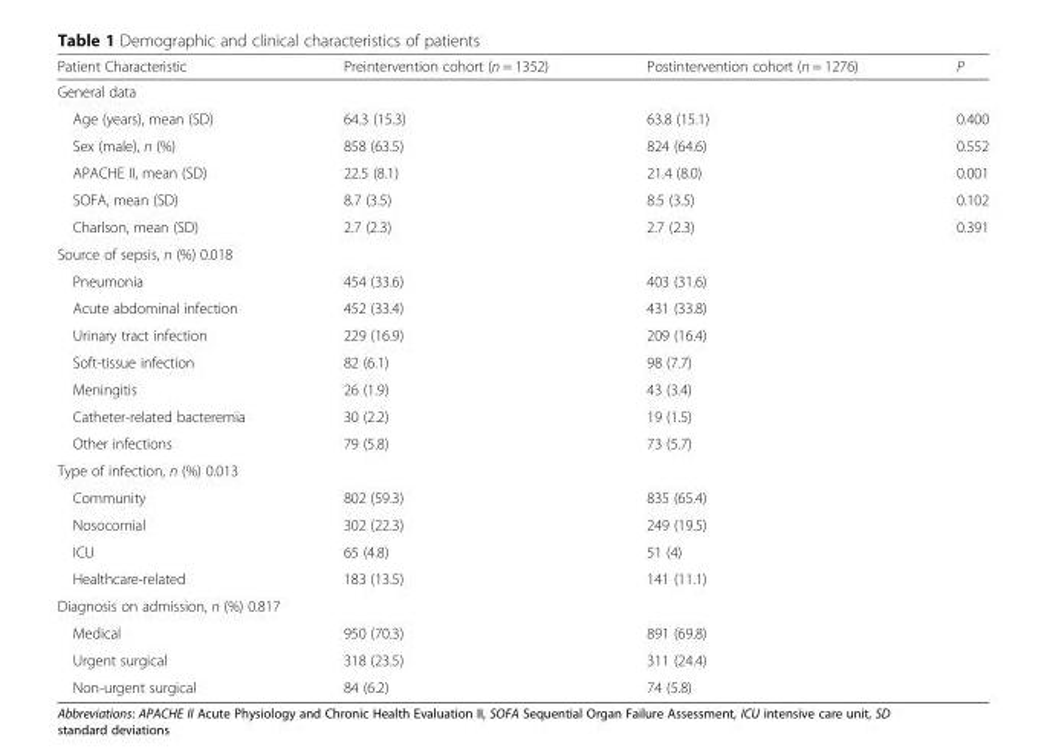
<table><thead><tr><td>Patient Characteristic</td><td>Preintervention cohort (n = 1352)</td><td>Postintervention cohort (n = 1276)</td><td>P</td></tr></thead><tbody><tr><td colspan="4">General data</td></tr><tr><td>Age (years), mean (SD)</td><td>64.3 (15.3)</td><td>63.8 (15.1)</td><td>0.400</td></tr><tr><td>Sex (male), n (%)</td><td>858 (63.5)</td><td>824 (64.6)</td><td>0.552</td></tr><tr><td>APACHE II, mean (SD)</td><td>22.5 (8.1)</td><td>21.4 (8.0)</td><td>0.001</td></tr><tr><td>SOFA, mean (SD)</td><td>8.7 (3.5)</td><td>8.5 (3.5)</td><td>0.102</td></tr><tr><td>Charlson, mean (SD)</td><td>2.7 (2.3)</td><td>2.7 (2.3)</td><td>0.391</td></tr><tr><td colspan="4">Source of sepsis, n (%) 0.018</td></tr><tr><td>Pneumonia</td><td>454 (33.6)</td><td>403 (31.6)</td><td rowspan="7"></td></tr><tr><td>Acute abdominal infection</td><td>452 (33.4)</td><td>431 (33.8)</td></tr><tr><td>Urinary tract infection</td><td>229 (16.9)</td><td>209 (16.4)</td></tr><tr><td>Soft-tissue infection</td><td>82 (6.1)</td><td>98 (7.7)</td></tr><tr><td>Meningitis</td><td>26 (1.9)</td><td>43 (3.4)</td></tr><tr><td>Catheter-related bacteremia</td><td>30 (2.2)</td><td>19 (1.5)</td></tr><tr><td>Other infections</td><td>79 (5.8)</td><td>73 (5.7)</td></tr><tr><td colspan="4">Type of infection, n (%) 0.013</td></tr><tr><td>Community</td><td>802 (59.3)</td><td>835 (65.4)</td><td rowspan="4"></td></tr><tr><td>Nosocomial</td><td>302 (22.3)</td><td>249 (19.5)</td></tr><tr><td>ICU</td><td>65 (4.8)</td><td>51 (4)</td></tr><tr><td>Healthcare-related</td><td>183 (13.5)</td><td>141 (11.1)</td></tr><tr><td colspan="4">Diagnosis on admission, n (%) 0.817</td></tr><tr><td>Medical</td><td>950 (70.3)</td><td>891 (69.8)</td><td rowspan="3"></td></tr><tr><td>Urgent surgical</td><td>318 (23.5)</td><td>311 (24.4)</td></tr><tr><td>Non-urgent surgical</td><td>84 (6.2)</td><td>74 (5.8)</td></tr></tbody></table>